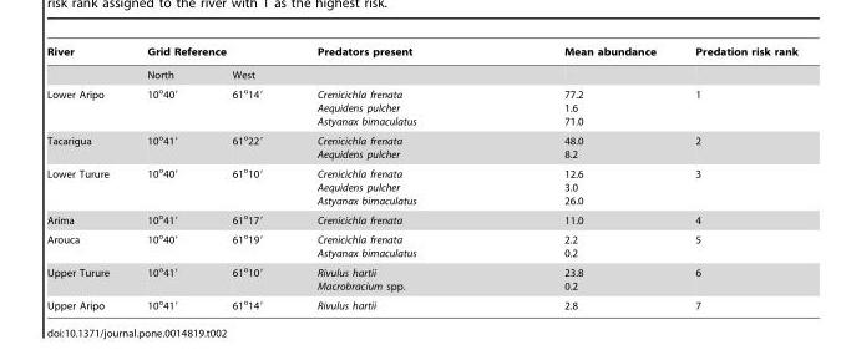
<table><thead><tr><td rowspan="2">River</td><td colspan="2">Grid Reference</td><td rowspan="2">Predators present</td><td rowspan="2">Mean abundance</td><td rowspan="2">Predation risk rank</td></tr><tr><td>North</td><td>West</td></tr></thead><tbody><tr><td>Lower Aripo</td><td>10<sup>o</sup>40′</td><td>61<sup>o</sup>14′</td><td>Crenicichla frenata Aequidens pulcher Astyanax bimaculatus</td><td>77.2 1.6 71.0</td><td>1</td></tr><tr><td>Tacarigua</td><td>10<sup>o</sup>41′</td><td>61<sup>o</sup>22′</td><td>Crenicichla frenata Aequidens pulcher</td><td>48.0 8.2</td><td>2</td></tr><tr><td>Lower Turure</td><td>10<sup>o</sup>40′</td><td>61<sup>o</sup>10′</td><td>Crenicichla frenata Aequidens pulcher Astyanax bimaculatus</td><td>12.6 3.0 26.0</td><td>3</td></tr><tr><td>Arima</td><td>10<sup>o</sup>41′</td><td>61<sup>o</sup>17′</td><td>Crenicichla frenata</td><td>11.0</td><td>4</td></tr><tr><td>Arouca</td><td>10<sup>o</sup>40′</td><td>61<sup>o</sup>19′</td><td>Crenicichla frenata Astyanax bimaculatus</td><td>2.2 0.2</td><td>5</td></tr><tr><td>Upper Turure</td><td>10<sup>o</sup>41′</td><td>61<sup>o</sup>10′</td><td>Rivulus hartii Macrobracium spp.</td><td>23.8 0.2</td><td>6</td></tr><tr><td>Upper Aripo</td><td>10<sup>o</sup>41′</td><td>61<sup>o</sup>14′</td><td>Rivulus hartii</td><td>2.8</td><td>7</td></tr></tbody></table>